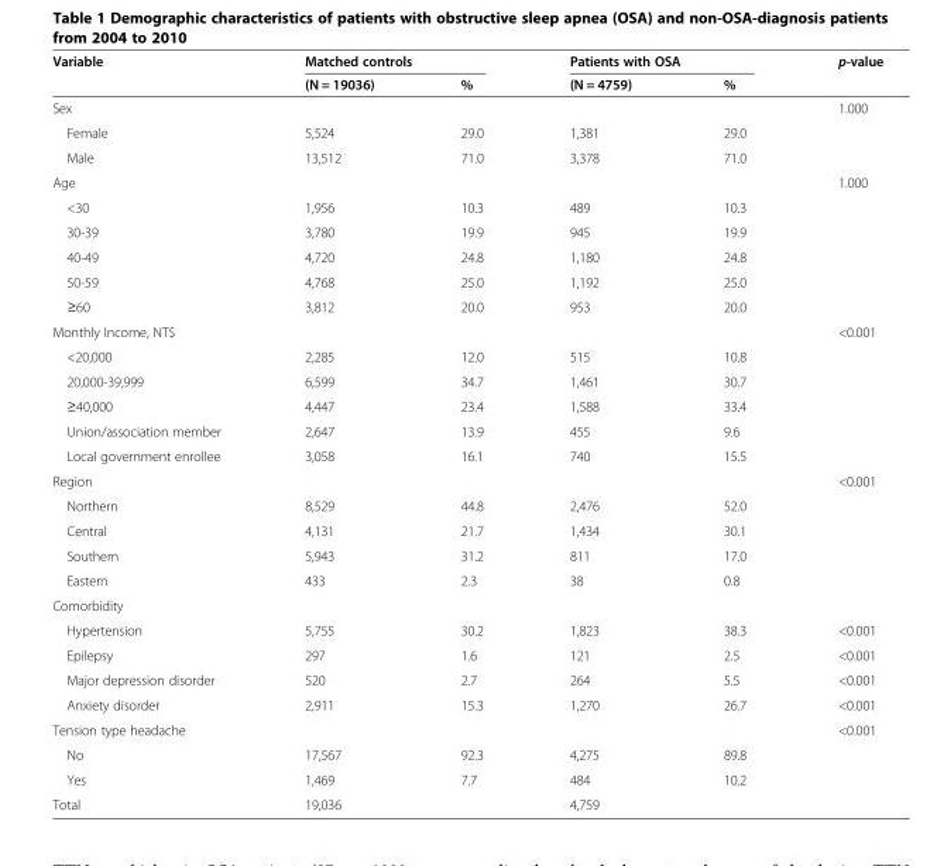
<table><thead><tr><td rowspan="2">Variable</td><td colspan="2">Matched controls</td><td colspan="2">Patients with OSA</td><td rowspan="2">p-value</td></tr><tr><td>(N = 19036)</td><td>%</td><td>(N = 4759)</td><td>%</td></tr></thead><tbody><tr><td>Sex</td><td></td><td></td><td></td><td></td><td>1.000</td></tr><tr><td>Female</td><td>5,524</td><td>29.0</td><td>1,381</td><td>29.0</td><td></td></tr><tr><td>Male</td><td>13,512</td><td>71.0</td><td>3,378</td><td>71.0</td><td></td></tr><tr><td>Age</td><td></td><td></td><td></td><td></td><td>1.000</td></tr><tr><td>&lt;30</td><td>1,956</td><td>10.3</td><td>489</td><td>10.3</td><td></td></tr><tr><td>30-39</td><td>3,780</td><td>19.9</td><td>945</td><td>19.9</td><td></td></tr><tr><td>40-49</td><td>4,720</td><td>24.8</td><td>1,180</td><td>24.8</td><td></td></tr><tr><td>50-59</td><td>4,768</td><td>25.0</td><td>1,192</td><td>25.0</td><td></td></tr><tr><td>≥60</td><td>3,812</td><td>20.0</td><td>953</td><td>20.0</td><td></td></tr><tr><td>Monthly Income, NT$</td><td></td><td></td><td></td><td></td><td>&lt;0.001</td></tr><tr><td>&lt;20,000</td><td>2,285</td><td>12.0</td><td>515</td><td>10.8</td><td></td></tr><tr><td>20,000-39,999</td><td>6,599</td><td>34.7</td><td>1,461</td><td>30.7</td><td></td></tr><tr><td>≥40,000</td><td>4,447</td><td>23.4</td><td>1,588</td><td>33.4</td><td></td></tr><tr><td>Union/association member</td><td>2,647</td><td>13.9</td><td>455</td><td>9.6</td><td></td></tr><tr><td>Local government enrollee</td><td>3,058</td><td>16.1</td><td>740</td><td>15.5</td><td></td></tr><tr><td>Region</td><td></td><td></td><td></td><td></td><td>&lt;0.001</td></tr><tr><td>Northern</td><td>8,529</td><td>44.8</td><td>2,476</td><td>52.0</td><td></td></tr><tr><td>Central</td><td>4,131</td><td>21.7</td><td>1,434</td><td>30.1</td><td></td></tr><tr><td>Southern</td><td>5,943</td><td>31.2</td><td>811</td><td>17.0</td><td></td></tr><tr><td>Eastern</td><td>433</td><td>2.3</td><td>38</td><td>0.8</td><td></td></tr><tr><td colspan="6">Comorbidity</td></tr><tr><td>Hypertension</td><td>5,755</td><td>30.2</td><td>1,823</td><td>38.3</td><td>&lt;0.001</td></tr><tr><td>Epilepsy</td><td>297</td><td>1.6</td><td>121</td><td>2.5</td><td>&lt;0.001</td></tr><tr><td>Major depression disorder</td><td>520</td><td>2.7</td><td>264</td><td>5.5</td><td>&lt;0.001</td></tr><tr><td>Anxiety disorder</td><td>2,911</td><td>15.3</td><td>1,270</td><td>26.7</td><td>&lt;0.001</td></tr><tr><td>Tension type headache</td><td></td><td></td><td></td><td></td><td>&lt;0.001</td></tr><tr><td>No</td><td>17,567</td><td>92.3</td><td>4,275</td><td>89.8</td><td></td></tr><tr><td>Yes</td><td>1,469</td><td>7.7</td><td>484</td><td>10.2</td><td></td></tr><tr><td>Total</td><td>19,036</td><td></td><td>4,759</td><td></td><td></td></tr></tbody></table>